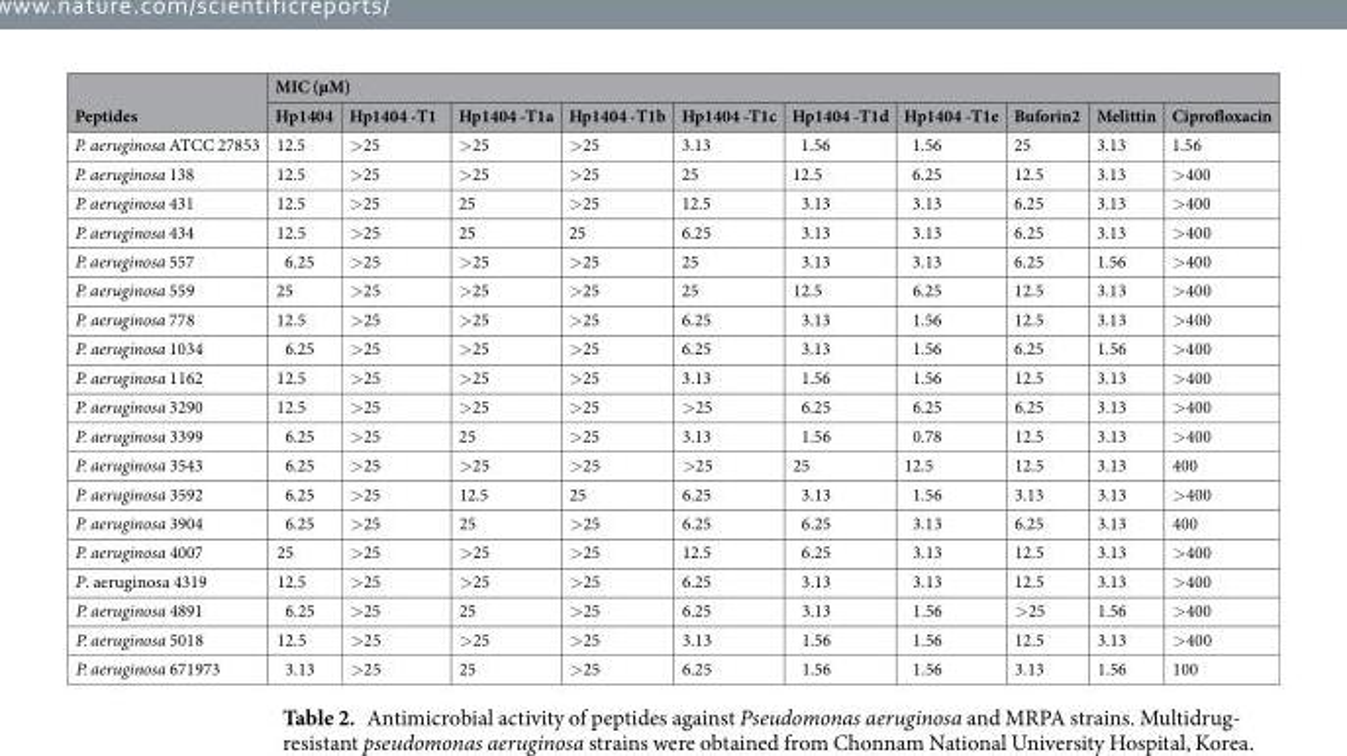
<table><thead><tr><td rowspan="2">Peptides</td><td colspan="10">MIC (µM)</td></tr><tr><td>Hp1404</td><td>Hp1404 -T1</td><td>Hp1404 -T1a</td><td>Hp1404 -T1b</td><td>Hp1404 -T1c</td><td>Hp1404 -T1d</td><td>Hp1404 -T1e</td><td>Buforin2</td><td>Melittin</td><td>Ciprofloxacin</td></tr></thead><tbody><tr><td>P. aeruginosa ATCC 27853</td><td>12.5</td><td>&gt;25</td><td>&gt;25</td><td>&gt;25</td><td>3.13</td><td>1.56</td><td>1.56</td><td>25</td><td>3.13</td><td>1.56</td></tr><tr><td>P. aeruginosa 138</td><td>12.5</td><td>&gt;25</td><td>&gt;25</td><td>&gt;25</td><td>25</td><td>12.5</td><td>6.25</td><td>12.5</td><td>3.13</td><td>&gt;400</td></tr><tr><td>P. aeruginosa 431</td><td>12.5</td><td>&gt;25</td><td>25</td><td>&gt;25</td><td>12.5</td><td>3.13</td><td>3.13</td><td>6.25</td><td>3.13</td><td>&gt;400</td></tr><tr><td>P. aeruginosa 434</td><td>12.5</td><td>&gt;25</td><td>25</td><td>25</td><td>6.25</td><td>3.13</td><td>3.13</td><td>6.25</td><td>3.13</td><td>&gt;400</td></tr><tr><td>P. aeruginosa 557</td><td>6.25</td><td>&gt;25</td><td>&gt;25</td><td>&gt;25</td><td>25</td><td>3.13</td><td>3.13</td><td>6.25</td><td>1.56</td><td>&gt;400</td></tr><tr><td>P. aeruginosa 559</td><td>25</td><td>&gt;25</td><td>&gt;25</td><td>&gt;25</td><td>25</td><td>12.5</td><td>6.25</td><td>12.5</td><td>3.13</td><td>&gt;400</td></tr><tr><td>P. aeruginosa 778</td><td>12.5</td><td>&gt;25</td><td>&gt;25</td><td>&gt;25</td><td>6.25</td><td>3.13</td><td>1.56</td><td>12.5</td><td>3.13</td><td>&gt;400</td></tr><tr><td>P. aeruginosa 1034</td><td>6.25</td><td>&gt;25</td><td>&gt;25</td><td>&gt;25</td><td>6.25</td><td>3.13</td><td>1.56</td><td>6.25</td><td>1.56</td><td>&gt;400</td></tr><tr><td>P. aeruginosa 1162</td><td>12.5</td><td>&gt;25</td><td>&gt;25</td><td>&gt;25</td><td>3.13</td><td>1.56</td><td>1.56</td><td>12.5</td><td>3.13</td><td>&gt;400</td></tr><tr><td>P. aeruginosa 3290</td><td>12.5</td><td>&gt;25</td><td>&gt;25</td><td>&gt;25</td><td>&gt;25</td><td>6.25</td><td>6.25</td><td>6.25</td><td>3.13</td><td>&gt;400</td></tr><tr><td>P. aeruginosa 3399</td><td>6.25</td><td>&gt;25</td><td>25</td><td>&gt;25</td><td>3.13</td><td>1.56</td><td>0.78</td><td>12.5</td><td>3.13</td><td>&gt;400</td></tr><tr><td>P. aeruginosa 3543</td><td>6.25</td><td>&gt;25</td><td>&gt;25</td><td>&gt;25</td><td>&gt;25</td><td>25</td><td>12.5</td><td>12.5</td><td>3.13</td><td>400</td></tr><tr><td>P. aeruginosa 3592</td><td>6.25</td><td>&gt;25</td><td>12.5</td><td>25</td><td>6.25</td><td>3.13</td><td>1.56</td><td>3.13</td><td>3.13</td><td>&gt;400</td></tr><tr><td>P. aeruginosa 3904</td><td>6.25</td><td>&gt;25</td><td>25</td><td>&gt;25</td><td>6.25</td><td>6.25</td><td>3.13</td><td>6.25</td><td>3.13</td><td>400</td></tr><tr><td>P. aeruginosa 4007</td><td>25</td><td>&gt;25</td><td>&gt;25</td><td>&gt;25</td><td>12.5</td><td>6.25</td><td>3.13</td><td>12.5</td><td>3.13</td><td>&gt;400</td></tr><tr><td>P. aeruginosa 4319</td><td>12.5</td><td>&gt;25</td><td>&gt;25</td><td>&gt;25</td><td>6.25</td><td>3.13</td><td>3.13</td><td>12.5</td><td>3.13</td><td>&gt;400</td></tr><tr><td>P. aeruginosa 4891</td><td>6.25</td><td>&gt;25</td><td>25</td><td>&gt;25</td><td>6.25</td><td>3.13</td><td>1.56</td><td>&gt;25</td><td>1.56</td><td>&gt;400</td></tr><tr><td>P. aeruginosa 5018</td><td>12.5</td><td>&gt;25</td><td>&gt;25</td><td>&gt;25</td><td>3.13</td><td>1.56</td><td>1.56</td><td>12.5</td><td>3.13</td><td>&gt;400</td></tr><tr><td>P. aeruginosa 671973</td><td>3.13</td><td>&gt;25</td><td>25</td><td>&gt;25</td><td>6.25</td><td>1.56</td><td>1.56</td><td>3.13</td><td>1.56</td><td>100</td></tr></tbody></table>